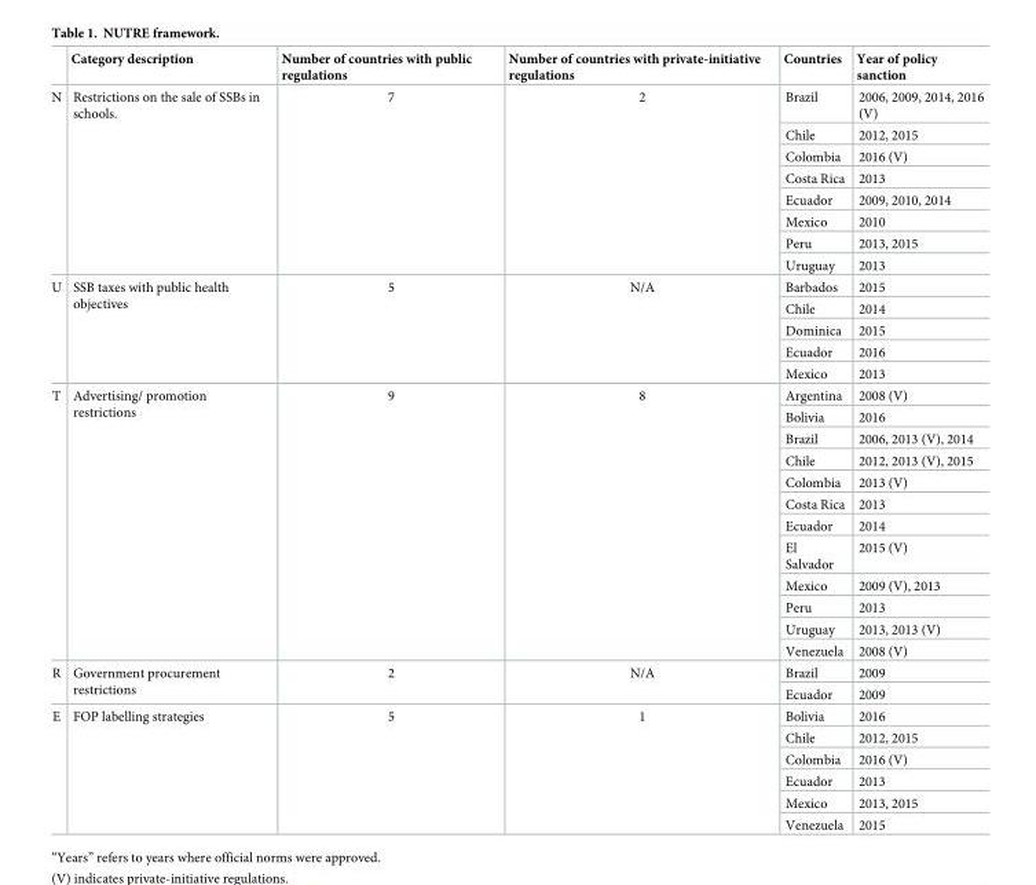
<table><thead><tr><td></td><td>Category description</td><td>Number of countries with public regulations</td><td>Number of countries with private-initiative regulations</td><td>Countries</td><td>Year of policy sanction</td></tr></thead><tbody><tr><td rowspan="8">N</td><td rowspan="8">Restrictions on the sale of SSBs in schools.</td><td rowspan="8">7</td><td rowspan="8">2</td><td>Brazil</td><td>2006, 2009, 2014, 2016 (V)</td></tr><tr><td>Chile</td><td>2012, 2015</td></tr><tr><td>Colombia</td><td>2016 (V)</td></tr><tr><td>Costa Rica</td><td>2013</td></tr><tr><td>Ecuador</td><td>2009, 2010, 2014</td></tr><tr><td>Mexico</td><td>2010</td></tr><tr><td>Peru</td><td>2013, 2015</td></tr><tr><td>Uruguay</td><td>2013</td></tr><tr><td rowspan="5">U</td><td rowspan="5">SSB taxes with public health objectives</td><td rowspan="5">5</td><td rowspan="5">N/A</td><td>Barbados</td><td>2015</td></tr><tr><td>Chile</td><td>2014</td></tr><tr><td>Dominica</td><td>2015</td></tr><tr><td>Ecuador</td><td>2016</td></tr><tr><td>Mexico</td><td>2013</td></tr><tr><td rowspan="12">T</td><td rowspan="12">Advertising/ promotion restrictions</td><td rowspan="12">9</td><td rowspan="12">8</td><td>Argentina</td><td>2008 (V)</td></tr><tr><td>Bolivia</td><td>2016</td></tr><tr><td>Brazil</td><td>2006, 2013 (V), 2014</td></tr><tr><td>Chile</td><td>2012, 2013 (V), 2015</td></tr><tr><td>Colombia</td><td>2013 (V)</td></tr><tr><td>Costa Rica</td><td>2013</td></tr><tr><td>Ecuador</td><td>2014</td></tr><tr><td>El Salvador</td><td>2015 (V)</td></tr><tr><td>Mexico</td><td>2009 (V), 2013</td></tr><tr><td>Peru</td><td>2013</td></tr><tr><td>Uruguay</td><td>2013, 2013 (V)</td></tr><tr><td>Venezuela</td><td>2008 (V)</td></tr><tr><td rowspan="2">R</td><td rowspan="2">Government procurement restrictions</td><td rowspan="2">2</td><td rowspan="2">N/A</td><td>Brazil</td><td>2009</td></tr><tr><td>Ecuador</td><td>2009</td></tr><tr><td rowspan="6">E</td><td rowspan="6">FOP labelling strategies</td><td rowspan="6">5</td><td rowspan="6">1</td><td>Bolivia</td><td>2016</td></tr><tr><td>Chile</td><td>2012, 2015</td></tr><tr><td>Colombia</td><td>2016 (V)</td></tr><tr><td>Ecuador</td><td>2013</td></tr><tr><td>Mexico</td><td>2013, 2015</td></tr><tr><td>Venezuela</td><td>2015</td></tr></tbody></table>